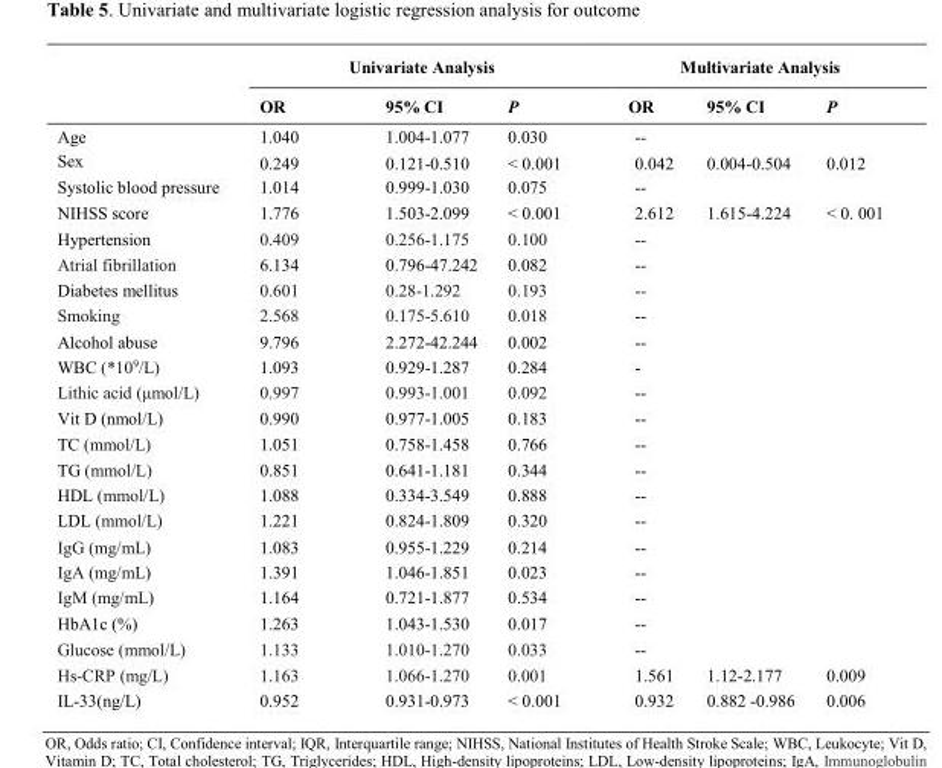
<table><thead><tr><td rowspan="2"></td><td colspan="3">Univariate Analysis</td><td colspan="3">Multivariate Analysis</td></tr><tr><td>OR</td><td>95% CI</td><td>P</td><td>OR</td><td>95% CI</td><td>P</td></tr></thead><tbody><tr><td>Age</td><td>1.040</td><td>1.004-1.077</td><td>0.030</td><td>--</td><td></td><td></td></tr><tr><td>Sex</td><td>0.249</td><td>0.121-0.510</td><td>&lt; 0.001</td><td>0.042</td><td>0.004-0.504</td><td>0.012</td></tr><tr><td>Systolic blood pressure</td><td>1.014</td><td>0.999-1.030</td><td>0.075</td><td>--</td><td></td><td></td></tr><tr><td>NIHSS score</td><td>1.776</td><td>1.503-2.099</td><td>&lt; 0.001</td><td>2.612</td><td>1.615-4.224</td><td>&lt; 0. 001</td></tr><tr><td>Hypertension</td><td>0.409</td><td>0.256-1.175</td><td>0.100</td><td>--</td><td></td><td></td></tr><tr><td>Atrial fibrillation</td><td>6.134</td><td>0.796-47.242</td><td>0.082</td><td>--</td><td></td><td></td></tr><tr><td>Diabetes mellitus</td><td>0.601</td><td>0.28-1.292</td><td>0.193</td><td>--</td><td></td><td></td></tr><tr><td>Smoking</td><td>2.568</td><td>0.175-5.610</td><td>0.018</td><td>--</td><td></td><td></td></tr><tr><td>Alcohol abuse</td><td>9.796</td><td>2.272-42.244</td><td>0.002</td><td>--</td><td></td><td></td></tr><tr><td>WBC (*10<sup>9</sup>/L)</td><td>1.093</td><td>0.929-1.287</td><td>0.284</td><td>-</td><td></td><td></td></tr><tr><td>Lithic acid (μmol/L)</td><td>0.997</td><td>0.993-1.001</td><td>0.092</td><td>--</td><td></td><td></td></tr><tr><td>Vit D (nmol/L)</td><td>0.990</td><td>0.977-1.005</td><td>0.183</td><td>--</td><td></td><td></td></tr><tr><td>TC (mmol/L)</td><td>1.051</td><td>0.758-1.458</td><td>0.766</td><td>--</td><td></td><td></td></tr><tr><td>TG (mmol/L)</td><td>0.851</td><td>0.641-1.181</td><td>0.344</td><td>--</td><td></td><td></td></tr><tr><td>HDL (mmol/L)</td><td>1.088</td><td>0.334-3.549</td><td>0.888</td><td>--</td><td></td><td></td></tr><tr><td>LDL (mmol/L)</td><td>1.221</td><td>0.824-1.809</td><td>0.320</td><td>--</td><td></td><td></td></tr><tr><td>IgG (mg/mL)</td><td>1.083</td><td>0.955-1.229</td><td>0.214</td><td>--</td><td></td><td></td></tr><tr><td>IgA (mg/mL)</td><td>1.391</td><td>1.046-1.851</td><td>0.023</td><td>--</td><td></td><td></td></tr><tr><td>IgM (mg/mL)</td><td>1.164</td><td>0.721-1.877</td><td>0.534</td><td>--</td><td></td><td></td></tr><tr><td>HbA1c (%)</td><td>1.263</td><td>1.043-1.530</td><td>0.017</td><td>--</td><td></td><td></td></tr><tr><td>Glucose (mmol/L)</td><td>1.133</td><td>1.010-1.270</td><td>0.033</td><td>--</td><td></td><td></td></tr><tr><td>Hs-CRP (mg/L)</td><td>1.163</td><td>1.066-1.270</td><td>0.001</td><td>1.561</td><td>1.12-2.177</td><td>0.009</td></tr><tr><td>IL-33(ng/L)</td><td>0.952</td><td>0.931-0.973</td><td>&lt; 0.001</td><td>0.932</td><td>0.882 -0.986</td><td>0.006</td></tr></tbody></table>